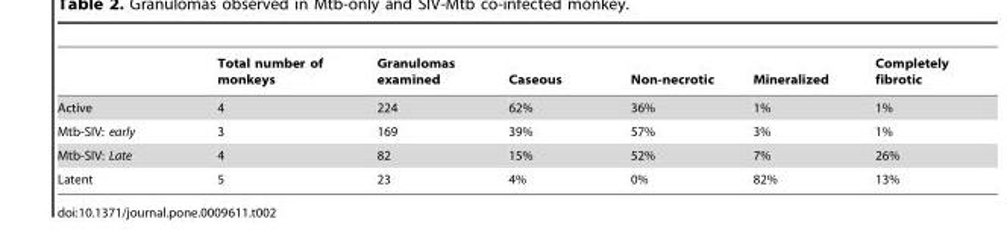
<table><thead><tr><td></td><td>Total number of monkeys</td><td>Granulomas examined</td><td>Caseous</td><td>Non-necrotic</td><td>Mineralized</td><td>Completely fibrotic</td></tr></thead><tbody><tr><td>Active</td><td>4</td><td>224</td><td>62%</td><td>36%</td><td>1%</td><td>1%</td></tr><tr><td>Mtb-SIV: early</td><td>3</td><td>169</td><td>39%</td><td>57%</td><td>3%</td><td>1%</td></tr><tr><td>Mtb-SIV: Late</td><td>4</td><td>82</td><td>15%</td><td>52%</td><td>7%</td><td>26%</td></tr><tr><td>Latent</td><td>5</td><td>23</td><td>4%</td><td>0%</td><td>82%</td><td>13%</td></tr></tbody></table>